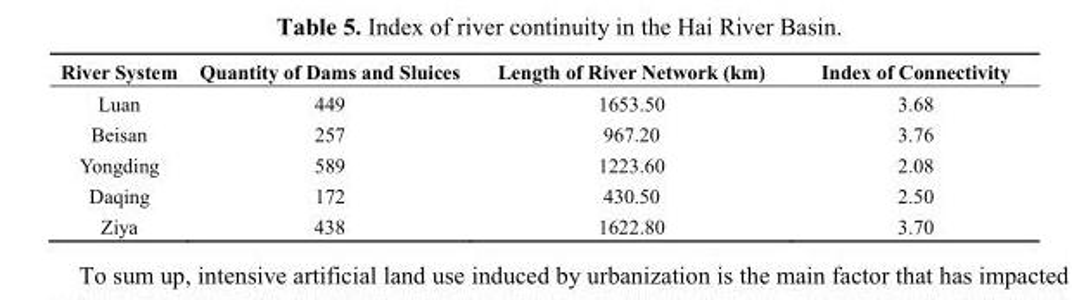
<table><thead><tr><td>River System</td><td>Quantity of Dams and Sluices</td><td>Length of River Network (km)</td><td>Index of Connectivity</td></tr></thead><tbody><tr><td>Luan</td><td>449</td><td>1653.50</td><td>3.68</td></tr><tr><td>Beisan</td><td>257</td><td>967.20</td><td>3.76</td></tr><tr><td>Yongding</td><td>589</td><td>1223.60</td><td>2.08</td></tr><tr><td>Daqing</td><td>172</td><td>430.50</td><td>2.50</td></tr><tr><td>Ziya</td><td>438</td><td>1622.80</td><td>3.70</td></tr></tbody></table>